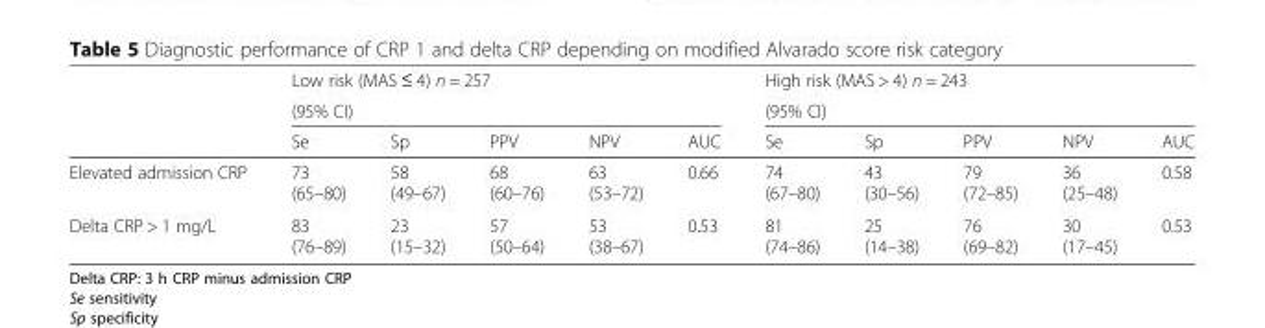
<table><thead><tr><td rowspan="3"></td><td rowspan="2" colspan="5">Low risk (MAS ≤ 4) n = 257 (95% CI)</td><td rowspan="2" colspan="5">High risk (MAS &gt; 4) n = 243 (95% CI)</td></tr><tr></tr><tr><td>Se</td><td>Sp</td><td>PPV</td><td>NPV</td><td>AUC</td><td>Se</td><td>Sp</td><td>PPV</td><td>NPV</td><td>AUC</td></tr></thead><tbody><tr><td>Elevated admission CRP</td><td>73 (65–80)</td><td>58 (49–67)</td><td>68 (60–76)</td><td>63 (53–72)</td><td>0.66</td><td>74 (67–80)</td><td>43 (30–56)</td><td>79 (72–85)</td><td>36 (25–48)</td><td>0.58</td></tr><tr><td>Delta CRP &gt; 1 mg/L</td><td>83 (76–89)</td><td>23 (15–32)</td><td>57 (50–64)</td><td>53 (38–67)</td><td>0.53</td><td>81 (74–86)</td><td>25 (14–38)</td><td>76 (69–82)</td><td>30 (17–45)</td><td>0.53</td></tr></tbody></table>